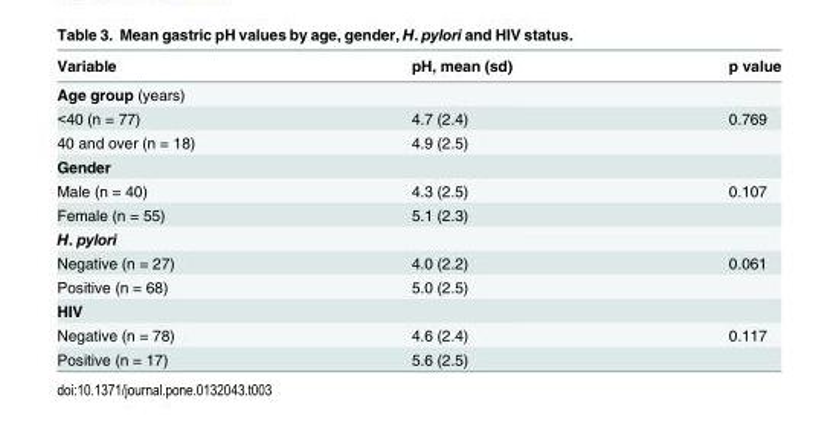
<table><thead><tr><td>Variable</td><td>pH, mean (sd)</td><td>p value</td></tr></thead><tbody><tr><td colspan="3">Age group (years)</td></tr><tr><td>&lt;40 (n = 77)</td><td>4.7 (2.4)</td><td>0.769</td></tr><tr><td>40 and over (n = 18)</td><td>4.9 (2.5)</td><td></td></tr><tr><td colspan="3">Gender</td></tr><tr><td>Male (n = 40)</td><td>4.3 (2.5)</td><td>0.107</td></tr><tr><td>Female (n = 55)</td><td>5.1 (2.3)</td><td></td></tr><tr><td colspan="3">H. pylori</td></tr><tr><td>Negative (n = 27)</td><td>4.0 (2.2)</td><td>0.061</td></tr><tr><td>Positive (n = 68)</td><td>5.0 (2.5)</td><td></td></tr><tr><td colspan="3">HIV</td></tr><tr><td>Negative (n = 78)</td><td>4.6 (2.4)</td><td>0.117</td></tr><tr><td>Positive (n = 17)</td><td>5.6 (2.5)</td><td></td></tr></tbody></table>